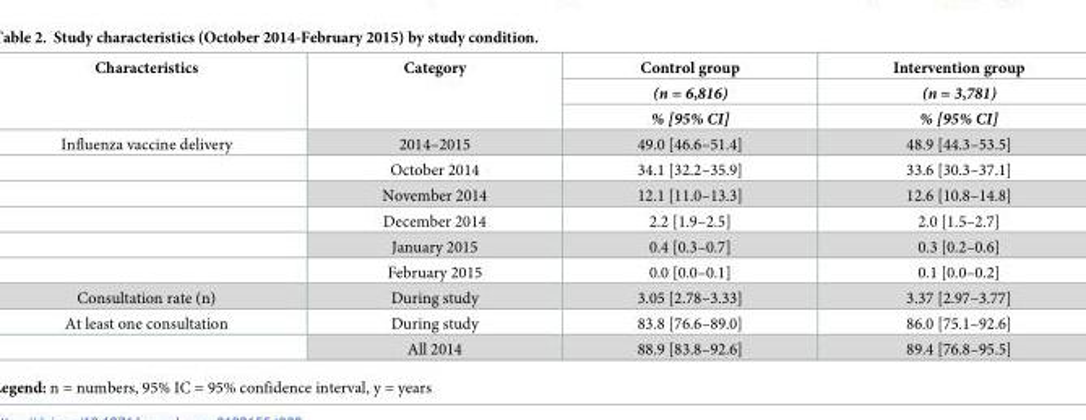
<table><thead><tr><td rowspan="3">Characteristics</td><td rowspan="3">Category</td><td rowspan="3">Control group (n = 6,816) % [95% CI]</td><td rowspan="3">Intervention group (n = 3,781) % [95% CI]</td></tr><tr></tr><tr></tr></thead><tbody><tr><td rowspan="6">Influenza vaccine delivery</td><td>2014–2015</td><td>49.0 [46.6–51.4]</td><td>48.9 [44.3–53.5]</td></tr><tr><td>October 2014</td><td>34.1 [32.2–35.9]</td><td>33.6 [30.3–37.1]</td></tr><tr><td>November 2014</td><td>12.1 [11.0–13.3]</td><td>12.6 [10.8–14.8]</td></tr><tr><td>December 2014</td><td>2.2 [1.9–2.5]</td><td>2.0 [1.5–2.7]</td></tr><tr><td>January 2015</td><td>0.4 [0.3–0.7]</td><td>0.3 [0.2–0.6]</td></tr><tr><td>February 2015</td><td>0.0 [0.0–0.1]</td><td>0.1 [0.0–0.2]</td></tr><tr><td>Consultation rate (n)</td><td>During study</td><td>3.05 [2.78–3.33]</td><td>3.37 [2.97–3.77]</td></tr><tr><td rowspan="2">At least one consultation</td><td>During study</td><td>83.8 [76.6–89.0]</td><td>86.0 [75.1–92.6]</td></tr><tr><td>All 2014</td><td>88.9 [83.8–92.6]</td><td>89.4 [76.8–95.5]</td></tr></tbody></table>